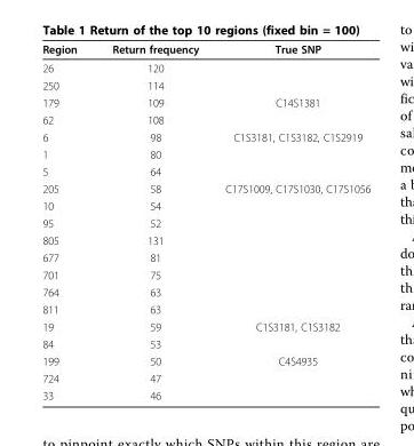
<table><thead><tr><td>Region</td><td>Return frequency</td><td>True SNP</td></tr></thead><tbody><tr><td>26</td><td>120</td><td></td></tr><tr><td>250</td><td>114</td><td></td></tr><tr><td>179</td><td>109</td><td>C14S1381</td></tr><tr><td>62</td><td>108</td><td></td></tr><tr><td>6</td><td>98</td><td>C1S3181, C1S3182, C1S2919</td></tr><tr><td>1</td><td>80</td><td></td></tr><tr><td>5</td><td>64</td><td></td></tr><tr><td>205</td><td>58</td><td>C17S1009, C17S1030, C17S1056</td></tr><tr><td>10</td><td>54</td><td></td></tr><tr><td>95</td><td>52</td><td></td></tr><tr><td>805</td><td>131</td><td></td></tr><tr><td>677</td><td>81</td><td></td></tr><tr><td>701</td><td>75</td><td></td></tr><tr><td>764</td><td>63</td><td></td></tr><tr><td>811</td><td>63</td><td></td></tr><tr><td>19</td><td>59</td><td>C1S3181, C1S3182</td></tr><tr><td>84</td><td>53</td><td></td></tr><tr><td>199</td><td>50</td><td>C4S4935</td></tr><tr><td>724</td><td>47</td><td></td></tr><tr><td>33</td><td>46</td><td></td></tr></tbody></table>